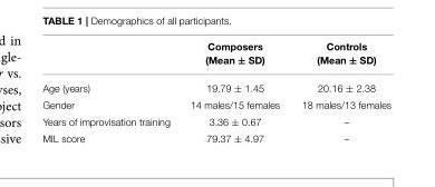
<table><thead><tr><td></td><td>Composers (Mean ± SD)</td><td>Controls (Mean ± SD)</td></tr></thead><tbody><tr><td>Age (years)</td><td>19.79 ± 1.45</td><td>20.16 ± 2.38</td></tr><tr><td>Gender</td><td>14 males/15 females</td><td>18 males/13 females</td></tr><tr><td>Years of improvisation training</td><td>3.36 ± 0.67</td><td>–</td></tr><tr><td>MIL score</td><td>79.37 ± 4.97</td><td>–</td></tr></tbody></table>